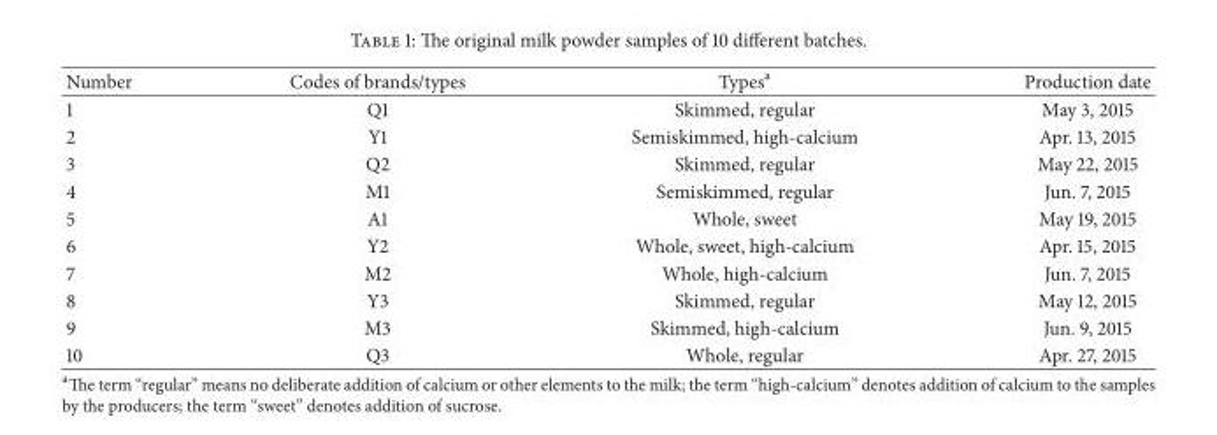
<table><thead><tr><td>Number</td><td>Codes of brands/types</td><td>Types<sup>a</sup></td><td>Production date</td></tr></thead><tbody><tr><td>1</td><td>Q1</td><td>Skimmed, regular</td><td>May 3, 2015</td></tr><tr><td>2</td><td>Y1</td><td>Semiskimmed, high-calcium</td><td>Apr. 13, 2015</td></tr><tr><td>3</td><td>Q2</td><td>Skimmed, regular</td><td>May 22, 2015</td></tr><tr><td>4</td><td>M1</td><td>Semiskimmed, regular</td><td>Jun. 7, 2015</td></tr><tr><td>5</td><td>A1</td><td>Whole, sweet</td><td>May 19, 2015</td></tr><tr><td>6</td><td>Y2</td><td>Whole, sweet, high-calcium</td><td>Apr. 15, 2015</td></tr><tr><td>7</td><td>M2</td><td>Whole, high-calcium</td><td>Jun. 7, 2015</td></tr><tr><td>8</td><td>Y3</td><td>Skimmed, regular</td><td>May 12, 2015</td></tr><tr><td>9</td><td>M3</td><td>Skimmed, high-calcium</td><td>Jun. 9, 2015</td></tr><tr><td>10</td><td>Q3</td><td>Whole, regular</td><td>Apr. 27, 2015</td></tr></tbody></table>